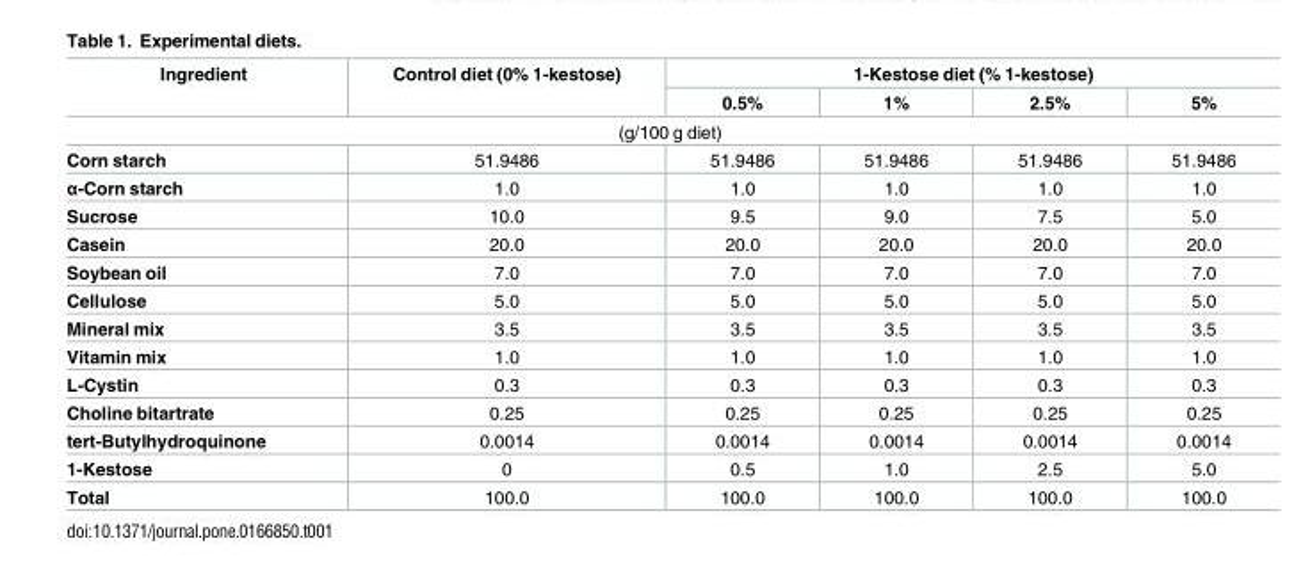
<table><thead><tr><td rowspan="2">Ingredient</td><td rowspan="2">Control diet (0% 1-kestose)</td><td colspan="4">1-Kestose diet (% 1-kestose)</td></tr><tr><td>0.5%</td><td>1%</td><td>2.5%</td><td>5%</td></tr></thead><tbody><tr><td colspan="6">(g/100 g diet)</td></tr><tr><td>Corn starch</td><td>51.9486</td><td>51.9486</td><td>51.9486</td><td>51.9486</td><td>51.9486</td></tr><tr><td>α-Corn starch</td><td>1.0</td><td>1.0</td><td>1.0</td><td>1.0</td><td>1.0</td></tr><tr><td>Sucrose</td><td>10.0</td><td>9.5</td><td>9.0</td><td>7.5</td><td>5.0</td></tr><tr><td>Casein</td><td>20.0</td><td>20.0</td><td>20.0</td><td>20.0</td><td>20.0</td></tr><tr><td>Soybean oil</td><td>7.0</td><td>7.0</td><td>7.0</td><td>7.0</td><td>7.0</td></tr><tr><td>Cellulose</td><td>5.0</td><td>5.0</td><td>5.0</td><td>5.0</td><td>5.0</td></tr><tr><td>Mineral mix</td><td>3.5</td><td>3.5</td><td>3.5</td><td>3.5</td><td>3.5</td></tr><tr><td>Vitamin mix</td><td>1.0</td><td>1.0</td><td>1.0</td><td>1.0</td><td>1.0</td></tr><tr><td>L-Cystin</td><td>0.3</td><td>0.3</td><td>0.3</td><td>0.3</td><td>0.3</td></tr><tr><td>Choline bitartrate</td><td>0.25</td><td>0.25</td><td>0.25</td><td>0.25</td><td>0.25</td></tr><tr><td>tert-Butylhydroquinone</td><td>0.0014</td><td>0.0014</td><td>0.0014</td><td>0.0014</td><td>0.0014</td></tr><tr><td>1-Kestose</td><td>0</td><td>0.5</td><td>1.0</td><td>2.5</td><td>5.0</td></tr><tr><td>Total</td><td>100.0</td><td>100.0</td><td>100.0</td><td>100.0</td><td>100.0</td></tr></tbody></table>